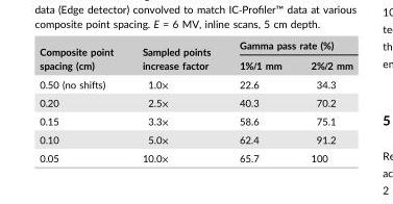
<table><thead><tr><td rowspan="2">Composite point spacing (cm)</td><td rowspan="2">Sampled points increase factor</td><td colspan="2">Gamma pass rate (%)</td></tr><tr><td>1%/1 mm</td><td>2%/2 mm</td></tr></thead><tbody><tr><td>0.50 (no shifts)</td><td>1.0×</td><td>22.6</td><td>34.3</td></tr><tr><td>0.20</td><td>2.5×</td><td>40.3</td><td>70.2</td></tr><tr><td>0.15</td><td>3.3×</td><td>58.6</td><td>75.1</td></tr><tr><td>0.10</td><td>5.0×</td><td>62.4</td><td>91.2</td></tr><tr><td>0.05</td><td>10.0×</td><td>65.7</td><td>100</td></tr></tbody></table>